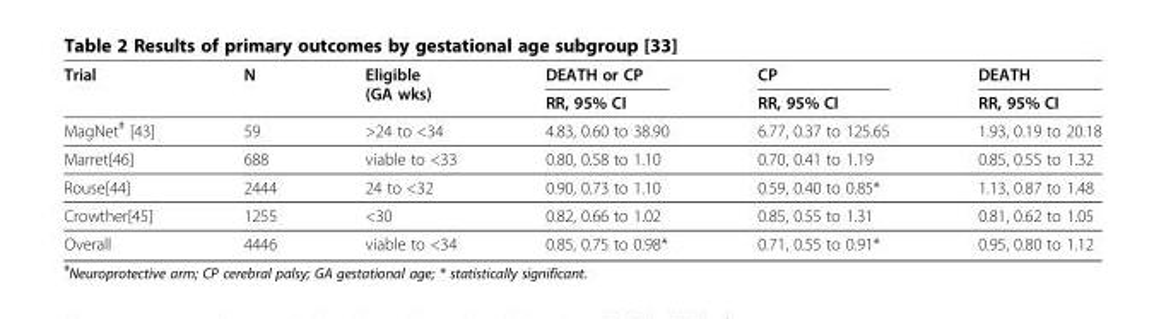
<table><thead><tr><td rowspan="2">Trial</td><td rowspan="2">N</td><td rowspan="2">Eligible (GA wks)</td><td rowspan="2">DEATH or CP RR, 95% CI</td><td rowspan="2">CP RR, 95% CI</td><td rowspan="2">DEATH RR, 95% CI</td></tr><tr></tr></thead><tbody><tr><td>MagNet<sup>ǂ</sup> [43]</td><td>59</td><td>&gt;24 to &lt;34</td><td>4.83, 0.60 to 38.90</td><td>6.77, 0.37 to 125.65</td><td>1.93, 0.19 to 20.18</td></tr><tr><td>Marret[46]</td><td>688</td><td>viable to &lt;33</td><td>0.80, 0.58 to 1.10</td><td>0.70, 0.41 to 1.19</td><td>0.85, 0.55 to 1.32</td></tr><tr><td>Rouse[44]</td><td>2444</td><td>24 to &lt;32</td><td>0.90, 0.73 to 1.10</td><td>0.59, 0.40 to 0.85*</td><td>1.13, 0.87 to 1.48</td></tr><tr><td>Crowther[45]</td><td>1255</td><td>&lt;30</td><td>0.82, 0.66 to 1.02</td><td>0.85, 0.55 to 1.31</td><td>0.81, 0.62 to 1.05</td></tr><tr><td>Overall</td><td>4446</td><td>viable to &lt;34</td><td>0.85, 0.75 to 0.98*</td><td>0.71, 0.55 to 0.91*</td><td>0.95, 0.80 to 1.12</td></tr></tbody></table>